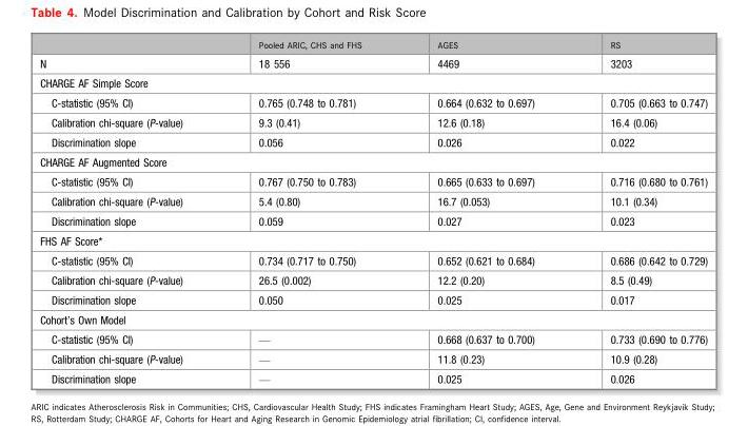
<table><thead><tr><td></td><td>Pooled ARIC, CHS and FHS</td><td>AGES</td><td>RS</td></tr></thead><tbody><tr><td>N</td><td>18 556</td><td>4469</td><td>3203</td></tr><tr><td colspan="4">CHARGE AF Simple Score</td></tr><tr><td>C-statistic (95% CI)</td><td>0.765 (0.748 to 0.781)</td><td>0.664 (0.632 to 0.697)</td><td>0.705 (0.663 to 0.747)</td></tr><tr><td>Calibration chi-square (P-value)</td><td>9.3 (0.41)</td><td>12.6 (0.18)</td><td>16.4 (0.06)</td></tr><tr><td>Discrimination slope</td><td>0.056</td><td>0.026</td><td>0.022</td></tr><tr><td colspan="4">CHARGE AF Augmented Score</td></tr><tr><td>C-statistic (95% CI)</td><td>0.767 (0.750 to 0.783)</td><td>0.665 (0.633 to 0.697)</td><td>0.716 (0.680 to 0.761)</td></tr><tr><td>Calibration chi-square (P-value)</td><td>5.4 (0.80)</td><td>16.7 (0.053)</td><td>10.1 (0.34)</td></tr><tr><td>Discrimination slope</td><td>0.059</td><td>0.027</td><td>0.023</td></tr><tr><td colspan="4">FHS AF Score*</td></tr><tr><td>C-statistic (95% CI)</td><td>0.734 (0.717 to 0.750)</td><td>0.652 (0.621 to 0.684)</td><td>0.686 (0.642 to 0.729)</td></tr><tr><td>Calibration chi-square (P-value)</td><td>26.5 (0.002)</td><td>12.2 (0.20)</td><td>8.5 (0.49)</td></tr><tr><td>Discrimination slope</td><td>0.050</td><td>0.025</td><td>0.017</td></tr><tr><td colspan="4">Cohort’s Own Model</td></tr><tr><td>C-statistic (95% CI)</td><td>—</td><td>0.668 (0.637 to 0.700)</td><td>0.733 (0.690 to 0.776)</td></tr><tr><td>Calibration chi-square (P-value)</td><td>—</td><td>11.8 (0.23)</td><td>10.9 (0.28)</td></tr><tr><td>Discrimination slope</td><td>—</td><td>0.025</td><td>0.026</td></tr></tbody></table>